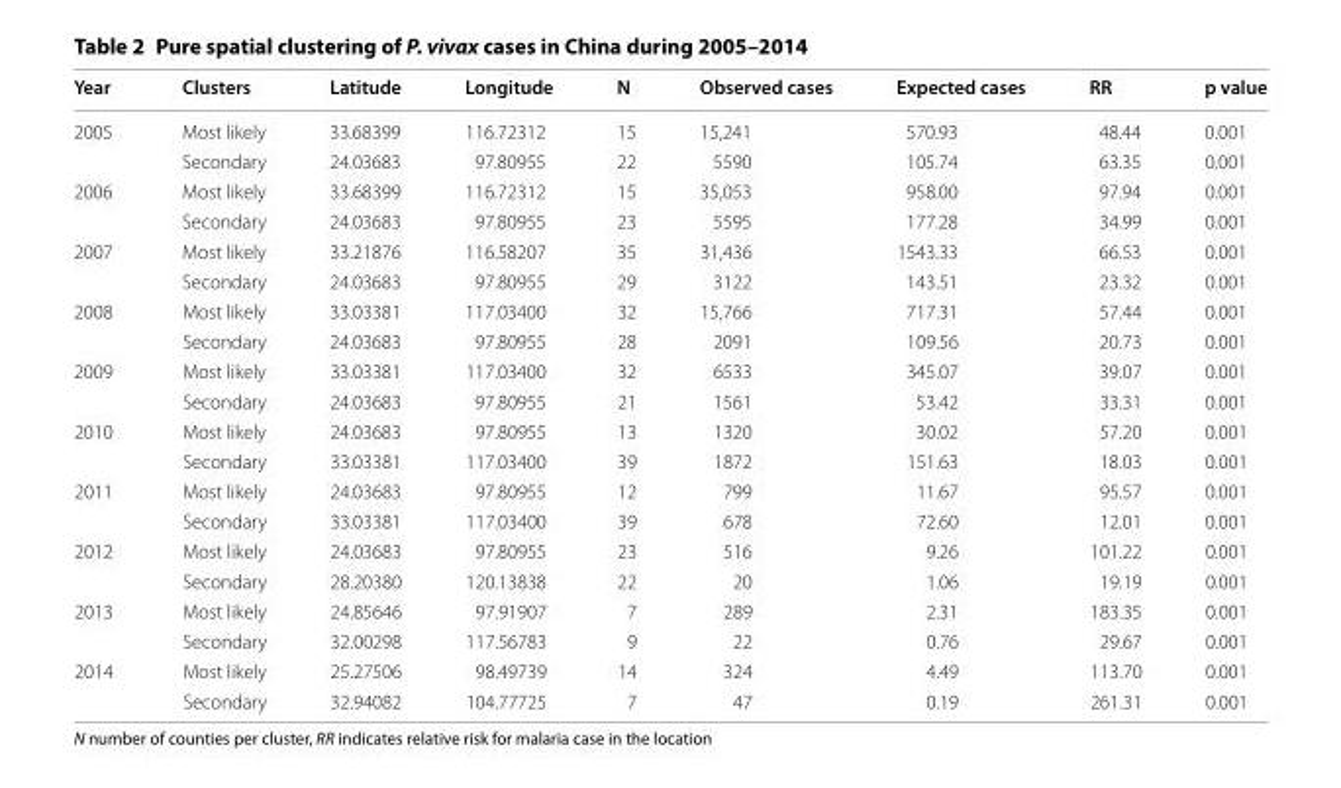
<table><thead><tr><td>Year</td><td>Clusters</td><td>Latitude</td><td>Longitude</td><td>N</td><td>Observed cases</td><td>Expected cases</td><td>RR</td><td>p value</td></tr></thead><tbody><tr><td rowspan="2">2005</td><td>Most likely</td><td>33.68399</td><td>116.72312</td><td>15</td><td>15,241</td><td>570.93</td><td>48.44</td><td>0.001</td></tr><tr><td>Secondary</td><td>24.03683</td><td>97.80955</td><td>22</td><td>5590</td><td>105.74</td><td>63.35</td><td>0.001</td></tr><tr><td rowspan="2">2006</td><td>Most likely</td><td>33.68399</td><td>116.72312</td><td>15</td><td>35,053</td><td>958.00</td><td>97.94</td><td>0.001</td></tr><tr><td>Secondary</td><td>24.03683</td><td>97.80955</td><td>23</td><td>5595</td><td>177.28</td><td>34.99</td><td>0.001</td></tr><tr><td rowspan="2">2007</td><td>Most likely</td><td>33.21876</td><td>116.58207</td><td>35</td><td>31,436</td><td>1543.33</td><td>66.53</td><td>0.001</td></tr><tr><td>Secondary</td><td>24.03683</td><td>97.80955</td><td>29</td><td>3122</td><td>143.51</td><td>23.32</td><td>0.001</td></tr><tr><td rowspan="2">2008</td><td>Most likely</td><td>33.03381</td><td>117.03400</td><td>32</td><td>15,766</td><td>717.31</td><td>57.44</td><td>0.001</td></tr><tr><td>Secondary</td><td>24.03683</td><td>97.80955</td><td>28</td><td>2091</td><td>109.56</td><td>20.73</td><td>0.001</td></tr><tr><td rowspan="2">2009</td><td>Most likely</td><td>33.03381</td><td>117.03400</td><td>32</td><td>6533</td><td>345.07</td><td>39.07</td><td>0.001</td></tr><tr><td>Secondary</td><td>24.03683</td><td>97.80955</td><td>21</td><td>1561</td><td>53.42</td><td>33.31</td><td>0.001</td></tr><tr><td rowspan="2">2010</td><td>Most likely</td><td>24.03683</td><td>97.80955</td><td>13</td><td>1320</td><td>30.02</td><td>57.20</td><td>0.001</td></tr><tr><td>Secondary</td><td>33.03381</td><td>117.03400</td><td>39</td><td>1872</td><td>151.63</td><td>18.03</td><td>0.001</td></tr><tr><td rowspan="2">2011</td><td>Most likely</td><td>24.03683</td><td>97.80955</td><td>12</td><td>799</td><td>11.67</td><td>95.57</td><td>0.001</td></tr><tr><td>Secondary</td><td>33.03381</td><td>117.03400</td><td>39</td><td>678</td><td>72.60</td><td>12.01</td><td>0.001</td></tr><tr><td rowspan="2">2012</td><td>Most likely</td><td>24.03683</td><td>97.80955</td><td>23</td><td>516</td><td>9.26</td><td>101.22</td><td>0.001</td></tr><tr><td>Secondary</td><td>28.20380</td><td>120.13838</td><td>22</td><td>20</td><td>1.06</td><td>19.19</td><td>0.001</td></tr><tr><td rowspan="2">2013</td><td>Most likely</td><td>24.85646</td><td>97.91907</td><td>7</td><td>289</td><td>2.31</td><td>183.35</td><td>0.001</td></tr><tr><td>Secondary</td><td>32.00298</td><td>117.56783</td><td>9</td><td>22</td><td>0.76</td><td>29.67</td><td>0.001</td></tr><tr><td rowspan="2">2014</td><td>Most likely</td><td>25.27506</td><td>98.49739</td><td>14</td><td>324</td><td>4.49</td><td>113.70</td><td>0.001</td></tr><tr><td>Secondary</td><td>32.94082</td><td>104.77725</td><td>7</td><td>47</td><td>0.19</td><td>261.31</td><td>0.001</td></tr></tbody></table>